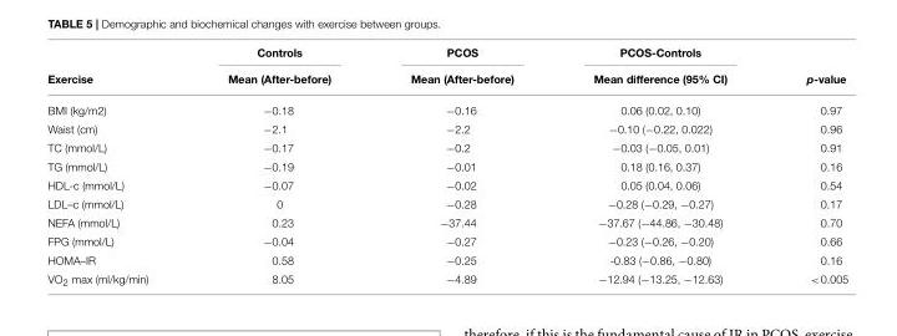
<table><thead><tr><td rowspan="2">Exercise</td><td rowspan="2">Controls Mean (After-before)</td><td rowspan="2">PCOS Mean (After-before)</td><td rowspan="2">PCOS-Controls Mean difference (95% CI)</td><td rowspan="2">p-value</td></tr><tr></tr></thead><tbody><tr><td>BMI (kg/m2)</td><td>−0.18</td><td>−0.16</td><td>0.06 (0.02, 0.10)</td><td>0.97</td></tr><tr><td>Waist (cm)</td><td>−2.1</td><td>−2.2</td><td>−0.10 (−0.22, 0.022)</td><td>0.96</td></tr><tr><td>TC (mmol/L)</td><td>−0.17</td><td>−0.2</td><td>−0.03 (−0.05, 0.01)</td><td>0.91</td></tr><tr><td>TG (mmol/L)</td><td>−0.19</td><td>−0.01</td><td>0.18 (0.16, 0.37)</td><td>0.16</td></tr><tr><td>HDL-c (mmol/L)</td><td>−0.07</td><td>−0.02</td><td>0.05 (0.04, 0.06)</td><td>0.54</td></tr><tr><td>LDL–c (mmol/L)</td><td>0</td><td>−0.28</td><td>−0.28 (−0.29, −0.27)</td><td>0.17</td></tr><tr><td>NEFA (mmol/L)</td><td>0.23</td><td>−37.44</td><td>−37.67 (−44.86, −30.48)</td><td>0.70</td></tr><tr><td>FPG (mmol/L)</td><td>−0.04</td><td>−0.27</td><td>−0.23 (−0.26, −0.20)</td><td>0.66</td></tr><tr><td>HOMA–IR</td><td>0.58</td><td>−0.25</td><td>-0.83 (−0.86, −0.80)</td><td>0.16</td></tr><tr><td>VO<sub>2</sub> max (ml/kg/min)</td><td>8.05</td><td>−4.89</td><td>−12.94 (−13.25, −12.63)</td><td>&lt;0.005</td></tr></tbody></table>